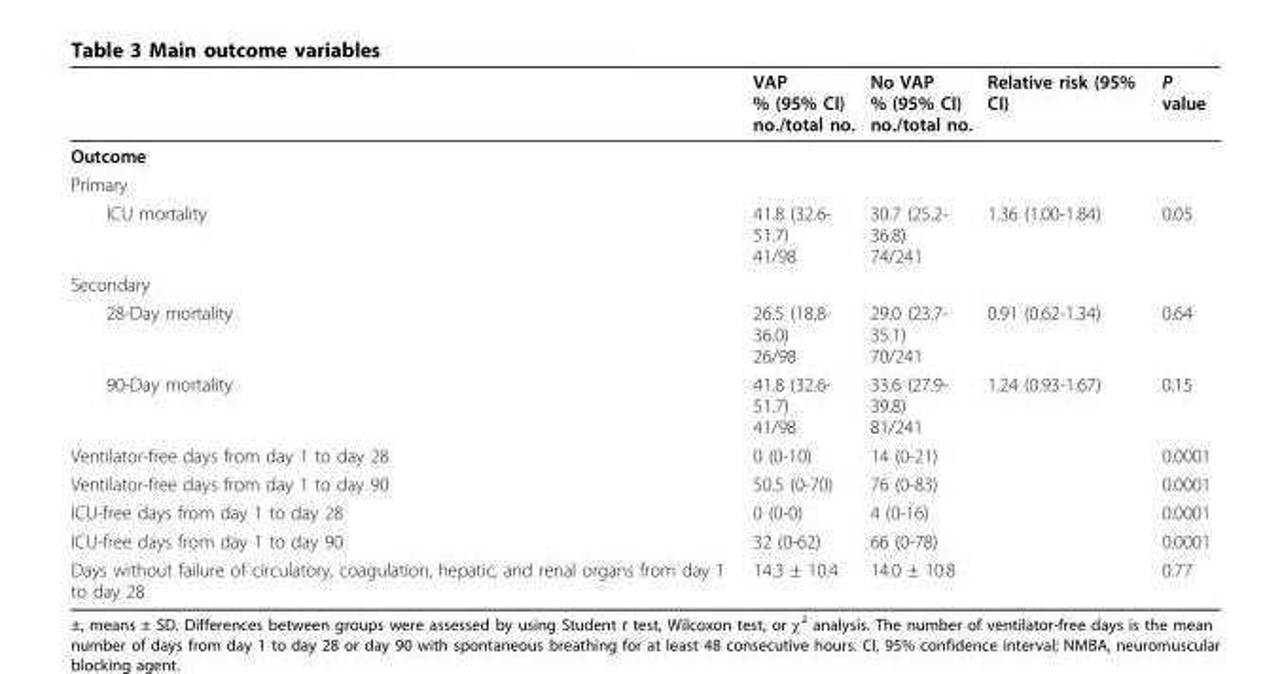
<table><thead><tr><td></td><td>VAP % (95% CI) no./total no.</td><td>No VAP % (95% CI) no./total no.</td><td>Relative risk (95% CI)</td><td>P value</td></tr></thead><tbody><tr><td colspan="5">Outcome</td></tr><tr><td colspan="5">Primary</td></tr><tr><td>ICU mortality</td><td>41.8 (32.6- 51.7) 41/98</td><td>30.7 (25.2- 36.8) 74/241</td><td>1.36 (1.00-1.84)</td><td>0.05</td></tr><tr><td colspan="5">Secondary</td></tr><tr><td>28-Day mortality</td><td>26.5 (18.8- 36.0) 26/98</td><td>29.0 (23.7- 35.1) 70/241</td><td>0.91 (0.62-1.34)</td><td>0.64</td></tr><tr><td>90-Day mortality</td><td>41.8 (32.6- 51.7) 41/98</td><td>33.6 (27.9- 39.8) 81/241</td><td>1.24 (0.93-1.67)</td><td>0.15</td></tr><tr><td>Ventilator-free days from day 1 to day 28</td><td>0 (0-10)</td><td>14 (0-21)</td><td></td><td>0.0001</td></tr><tr><td>Ventilator-free days from day 1 to day 90</td><td>50.5 (0-70)</td><td>76 (0-83)</td><td></td><td>0.0001</td></tr><tr><td>ICU-free days from day 1 to day 28</td><td>0 (0-0)</td><td>4 (0-16)</td><td></td><td>0.0001</td></tr><tr><td>ICU-free days from day 1 to day 90</td><td>32 (0-62)</td><td>66 (0-78)</td><td></td><td>0.0001</td></tr><tr><td>Days without failure of circulatory, coagulation, hepatic, and renal organs from day 1 to day 28</td><td>14.3 ± 10.4</td><td>14.0 ± 10.8</td><td></td><td>0.77</td></tr></tbody></table>